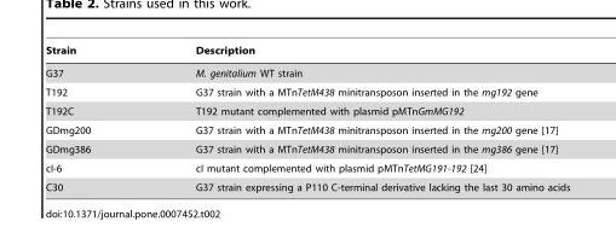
<table><thead><tr><td>Strain</td><td>Description</td></tr></thead><tbody><tr><td>G37</td><td>M. genitalium WT strain</td></tr><tr><td>T192</td><td>G37 strain with a MTnTetM438 minitransposon inserted in the mg192 gene</td></tr><tr><td>T192C</td><td>T192 mutant complemented with plasmid pMTnGmMG192</td></tr><tr><td>GDmg200</td><td>G37 strain with a MTnTetM438 minitransposon inserted in the mg200 gene [17]</td></tr><tr><td>GDmg386</td><td>G37 strain with a MTnTetM438 minitransposon inserted in the mg386 gene [17]</td></tr><tr><td>cI-6</td><td>cI mutant complemented with plasmid pMTnTetMG191-192 [24]</td></tr><tr><td>C30</td><td>G37 strain expressing a P110 C-terminal derivative lacking the last 30 amino acids</td></tr></tbody></table>